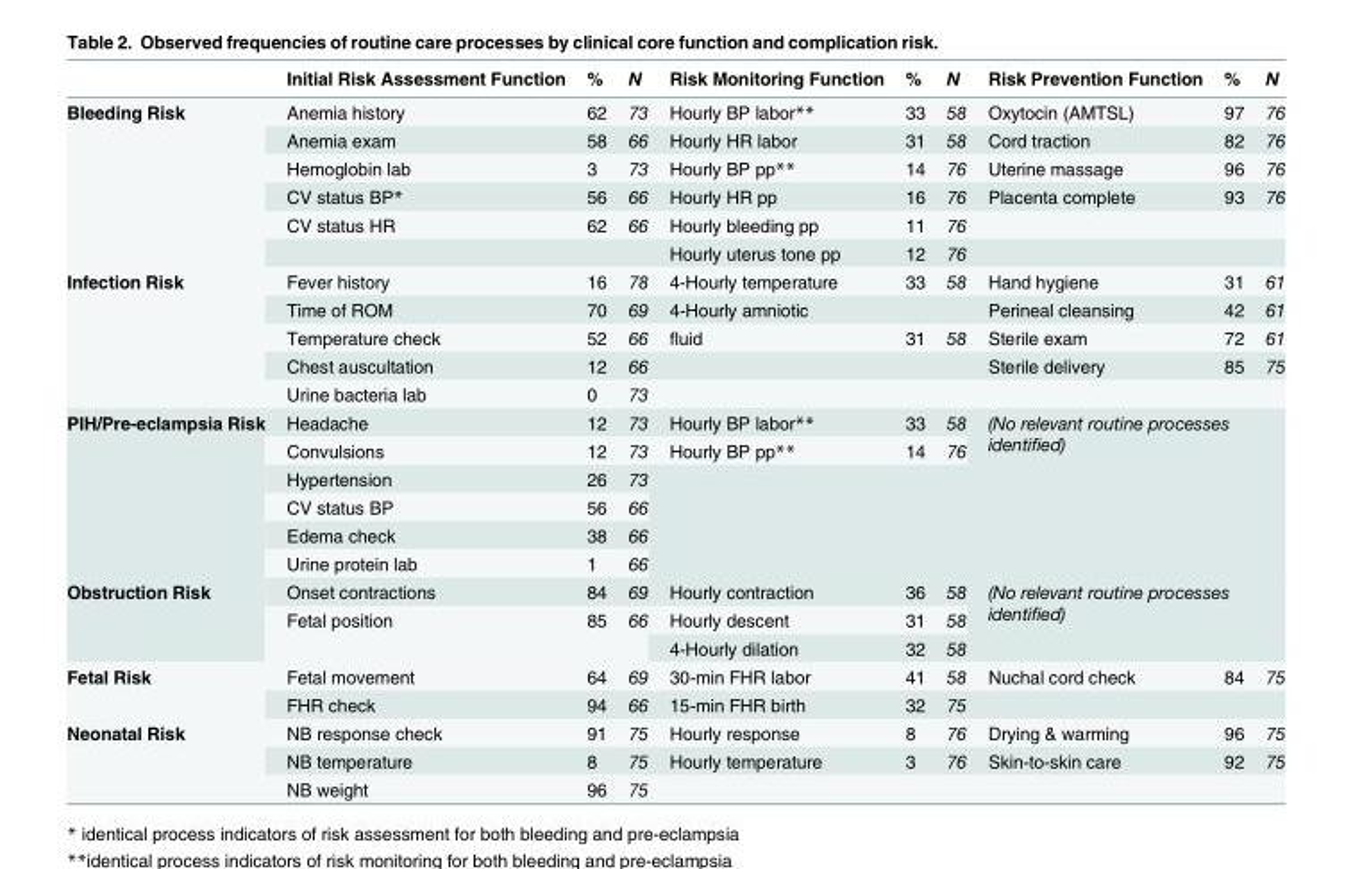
<table><thead><tr><td></td><td>Initial Risk Assessment Function</td><td>%</td><td>N</td><td>Risk Monitoring Function</td><td>%</td><td>N</td><td>Risk Prevention Function</td><td>%</td><td>N</td></tr></thead><tbody><tr><td rowspan="6">Bleeding Risk</td><td>Anemia history</td><td>62</td><td>73</td><td>Hourly BP labor**</td><td>33</td><td>58</td><td>Oxytocin (AMTSL)</td><td>97</td><td>76</td></tr><tr><td>Anemia exam</td><td>58</td><td>66</td><td>Hourly HR labor</td><td>31</td><td>58</td><td>Cord traction</td><td>82</td><td>76</td></tr><tr><td>Hemoglobin lab</td><td>3</td><td>73</td><td>Hourly BP pp**</td><td>14</td><td>76</td><td>Uterine massage</td><td>96</td><td>76</td></tr><tr><td>CV status BP*</td><td>56</td><td>66</td><td>Hourly HR pp</td><td>16</td><td>76</td><td>Placenta complete</td><td>93</td><td>76</td></tr><tr><td>CV status HR</td><td>62</td><td>66</td><td>Hourly bleeding pp</td><td>11</td><td>76</td><td></td><td></td><td></td></tr><tr><td></td><td></td><td></td><td>Hourly uterus tone pp</td><td>12</td><td>76</td><td></td><td></td><td></td></tr><tr><td rowspan="5">Infection Risk</td><td>Fever history</td><td>16</td><td>78</td><td>4-Hourly temperature</td><td>33</td><td>58</td><td>Hand hygiene</td><td>31</td><td>61</td></tr><tr><td>Time of ROM</td><td>70</td><td>69</td><td>4-Hourly amniotic</td><td></td><td></td><td>Perineal cleansing</td><td>42</td><td>61</td></tr><tr><td>Temperature check</td><td>52</td><td>66</td><td>fluid</td><td>31</td><td>58</td><td>Sterile exam</td><td>72</td><td>61</td></tr><tr><td>Chest auscultation</td><td>12</td><td>66</td><td></td><td></td><td></td><td>Sterile delivery</td><td>85</td><td>75</td></tr><tr><td>Urine bacteria lab</td><td>0</td><td>73</td><td></td><td></td><td></td><td></td><td></td><td></td></tr><tr><td rowspan="6">PIH/Pre-eclampsia Risk</td><td>Headache</td><td>12</td><td>73</td><td>Hourly BP labor**</td><td>33</td><td>58</td><td rowspan="6" colspan="3">(No relevant routine processes identified)</td></tr><tr><td>Convulsions</td><td>12</td><td>73</td><td>Hourly BP pp**</td><td>14</td><td>76</td></tr><tr><td>Hypertension</td><td>26</td><td>73</td><td rowspan="4"></td><td rowspan="4"></td><td rowspan="4"></td></tr><tr><td>CV status BP</td><td>56</td><td>66</td></tr><tr><td>Edema check</td><td>38</td><td>66</td></tr><tr><td>Urine protein lab</td><td>1</td><td>66</td></tr><tr><td rowspan="3">Obstruction Risk</td><td>Onset contractions</td><td>84</td><td>69</td><td>Hourly contraction</td><td>36</td><td>58</td><td rowspan="3" colspan="3">(No relevant routine processes identified)</td></tr><tr><td rowspan="2">Fetal position</td><td rowspan="2">85</td><td rowspan="2">66</td><td>Hourly descent</td><td>31</td><td>58</td></tr><tr><td>4-Hourly dilation</td><td>32</td><td>58</td></tr><tr><td rowspan="2">Fetal Risk</td><td>Fetal movement</td><td>64</td><td>69</td><td>30-min FHR labor</td><td>41</td><td>58</td><td>Nuchal cord check</td><td>84</td><td>75</td></tr><tr><td>FHR check</td><td>94</td><td>66</td><td>15-min FHR birth</td><td>32</td><td>75</td><td></td><td></td><td></td></tr><tr><td rowspan="3">Neonatal Risk</td><td>NB response check</td><td>91</td><td>75</td><td>Hourly response</td><td>8</td><td>76</td><td>Drying &amp; warming</td><td>96</td><td>75</td></tr><tr><td>NB temperature</td><td>8</td><td>75</td><td>Hourly temperature</td><td>3</td><td>76</td><td>Skin-to-skin care</td><td>92</td><td>75</td></tr><tr><td>NB weight</td><td>96</td><td>75</td><td></td><td></td><td></td><td></td><td></td><td></td></tr></tbody></table>